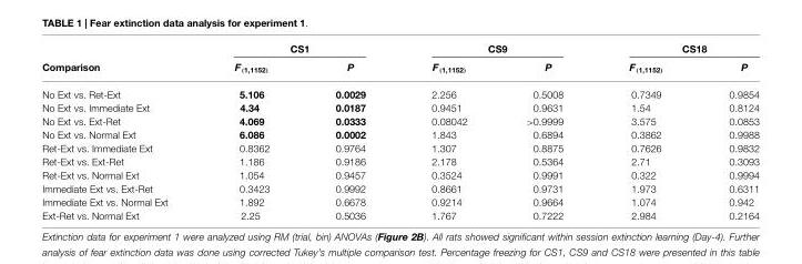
<table><thead><tr><td rowspan="2">Comparison</td><td colspan="2">CS1</td><td colspan="2">CS9</td><td colspan="2">CS18</td></tr><tr><td>F<sub>(1,1152)</sub></td><td>P</td><td>F<sub>(1,1152)</sub></td><td>P</td><td>F<sub>(1,1152)</sub></td><td>P</td></tr></thead><tbody><tr><td>No Ext vs. Ret-Ext</td><td>5.106</td><td>0.0029</td><td>2.256</td><td>0.5008</td><td>0.7349</td><td>0.9854</td></tr><tr><td>No Ext vs. Immediate Ext</td><td>4.34</td><td>0.0187</td><td>0.9451</td><td>0.9631</td><td>1.54</td><td>0.8124</td></tr><tr><td>No Ext vs. Ext-Ret</td><td>4.069</td><td>0.0333</td><td>0.08042</td><td>&gt;0.9999</td><td>3.575</td><td>0.0853</td></tr><tr><td>No Ext vs. Normal Ext</td><td>6.086</td><td>0.0002</td><td>1.843</td><td>0.6894</td><td>0.3862</td><td>0.9988</td></tr><tr><td>Ret-Ext vs. Immediate Ext</td><td>0.8362</td><td>0.9764</td><td>1.307</td><td>0.8875</td><td>0.7626</td><td>0.9832</td></tr><tr><td>Ret-Ext vs. Ext-Ret</td><td>1.186</td><td>0.9186</td><td>2.178</td><td>0.5364</td><td>2.71</td><td>0.3093</td></tr><tr><td>Ret-Ext vs. Normal Ext</td><td>1.054</td><td>0.9457</td><td>0.3524</td><td>0.9991</td><td>0.322</td><td>0.9994</td></tr><tr><td>Immediate Ext vs. Ext-Ret</td><td>0.3423</td><td>0.9992</td><td>0.8661</td><td>0.9731</td><td>1.973</td><td>0.6311</td></tr><tr><td>Immediate Ext vs. Normal Ext</td><td>1.892</td><td>0.6678</td><td>0.9214</td><td>0.9664</td><td>1.074</td><td>0.942</td></tr><tr><td>Ext-Ret vs. Normal Ext</td><td>2.25</td><td>0.5036</td><td>1.767</td><td>0.7222</td><td>2.984</td><td>0.2164</td></tr></tbody></table>